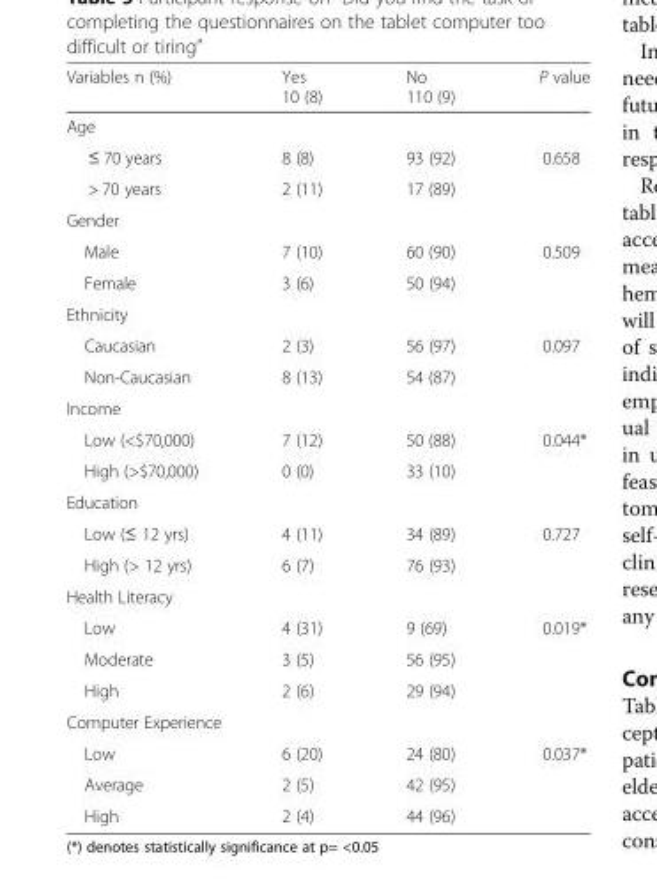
<table><thead><tr><td>Variables n (%)</td><td>Yes 10 (8)</td><td>No 110 (9)</td><td>P value</td></tr></thead><tbody><tr><td colspan="4">Age</td></tr><tr><td>≤ 70 years</td><td>8 (8)</td><td>93 (92)</td><td rowspan="2">0.658</td></tr><tr><td>&gt; 70 years</td><td>2 (11)</td><td>17 (89)</td></tr><tr><td colspan="4">Gender</td></tr><tr><td>Male</td><td>7 (10)</td><td>60 (90)</td><td rowspan="2">0.509</td></tr><tr><td>Female</td><td>3 (6)</td><td>50 (94)</td></tr><tr><td colspan="4">Ethnicity</td></tr><tr><td>Caucasian</td><td>2 (3)</td><td>56 (97)</td><td rowspan="2">0.097</td></tr><tr><td>Non-Caucasian</td><td>8 (13)</td><td>54 (87)</td></tr><tr><td colspan="4">Income</td></tr><tr><td>Low (&lt;$70,000)</td><td>7 (12)</td><td>50 (88)</td><td rowspan="2">0.044*</td></tr><tr><td>High (&gt;$70,000)</td><td>0 (0)</td><td>33 (10)</td></tr><tr><td colspan="4">Education</td></tr><tr><td>Low (≤ 12 yrs)</td><td>4 (11)</td><td>34 (89)</td><td>0.727</td></tr><tr><td>High (&gt; 12 yrs)</td><td>6 (7)</td><td>76 (93)</td><td></td></tr><tr><td colspan="4">Health Literacy</td></tr><tr><td>Low</td><td>4 (31)</td><td>9 (69)</td><td rowspan="3">0.019*</td></tr><tr><td>Moderate</td><td>3 (5)</td><td>56 (95)</td></tr><tr><td>High</td><td>2 (6)</td><td>29 (94)</td></tr><tr><td colspan="4">Computer Experience</td></tr><tr><td>Low</td><td>6 (20)</td><td>24 (80)</td><td rowspan="3">0.037*</td></tr><tr><td>Average</td><td>2 (5)</td><td>42 (95)</td></tr><tr><td>High</td><td>2 (4)</td><td>44 (96)</td></tr></tbody></table>